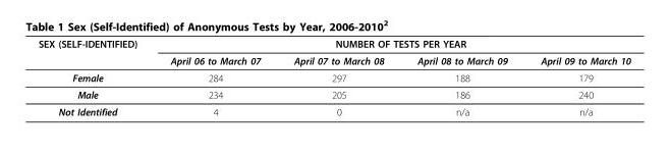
<table><thead><tr><td rowspan="2">SEX (SELF-IDENTIFIED)</td><td colspan="4">NUMBER OF TESTS PER YEAR</td></tr><tr><td>April 06 to March 07</td><td>April 07 to March 08</td><td>April 08 to March 09</td><td>April 09 to March 10</td></tr></thead><tbody><tr><td>Female</td><td>284</td><td>297</td><td>188</td><td>179</td></tr><tr><td>Male</td><td>234</td><td>205</td><td>186</td><td>240</td></tr><tr><td>Not Identified</td><td>4</td><td>0</td><td>n/a</td><td>n/a</td></tr></tbody></table>